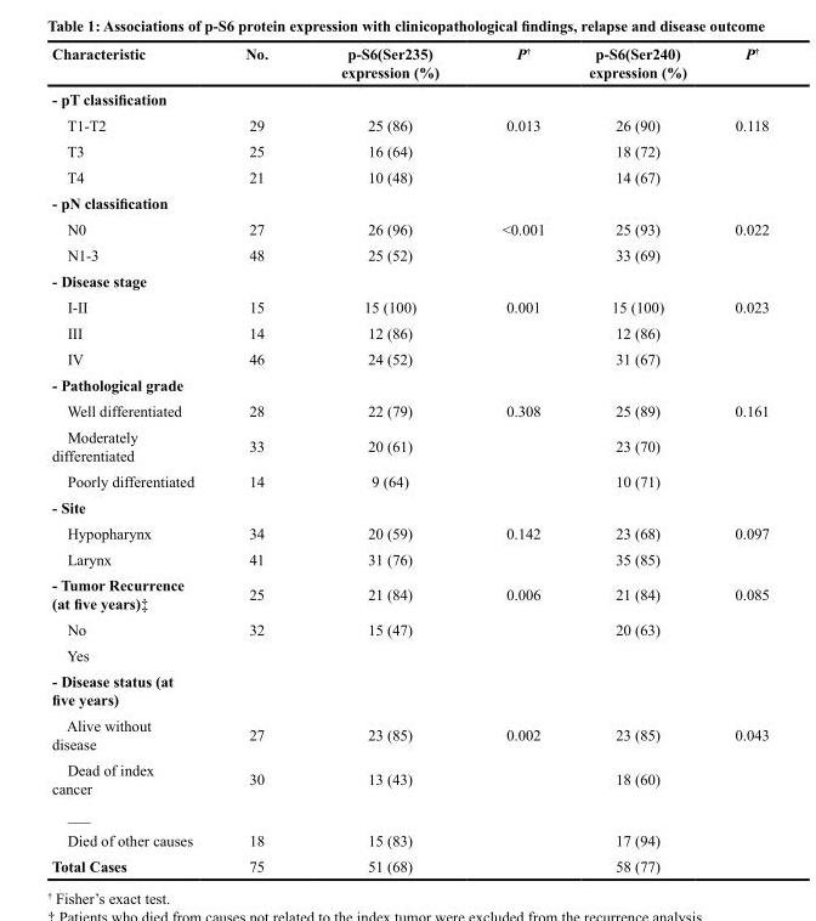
<table><thead><tr><td>Characteristic</td><td>No.</td><td>p-S6(Ser235) expression (%)</td><td>P<sup>†</sup></td><td>p-S6(Ser240) expression (%)</td><td>P<sup>†</sup></td></tr></thead><tbody><tr><td colspan="6">- pT classification</td></tr><tr><td>T1-T2</td><td>29</td><td>25 (86)</td><td>0.013</td><td>26 (90)</td><td>0.118</td></tr><tr><td>T3</td><td>25</td><td>16 (64)</td><td></td><td>18 (72)</td><td></td></tr><tr><td>T4</td><td>21</td><td>10 (48)</td><td></td><td>14 (67)</td><td></td></tr><tr><td colspan="6">- pN classification</td></tr><tr><td>N0</td><td>27</td><td>26 (96)</td><td>&lt;0.001</td><td>25 (93)</td><td>0.022</td></tr><tr><td>N1-3</td><td>48</td><td>25 (52)</td><td></td><td>33 (69)</td><td></td></tr><tr><td colspan="6">- Disease stage</td></tr><tr><td>I-II</td><td>15</td><td>15 (100)</td><td>0.001</td><td>15 (100)</td><td>0.023</td></tr><tr><td>III</td><td>14</td><td>12 (86)</td><td></td><td>12 (86)</td><td></td></tr><tr><td>IV</td><td>46</td><td>24 (52)</td><td></td><td>31 (67)</td><td></td></tr><tr><td colspan="6">- Pathological grade</td></tr><tr><td>Well differentiated</td><td>28</td><td>22 (79)</td><td>0.308</td><td>25 (89)</td><td>0.161</td></tr><tr><td>Moderately differentiated</td><td>33</td><td>20 (61)</td><td></td><td>23 (70)</td><td></td></tr><tr><td>Poorly differentiated</td><td>14</td><td>9 (64)</td><td></td><td>10 (71)</td><td></td></tr><tr><td colspan="6">- Site</td></tr><tr><td>Hypopharynx</td><td>34</td><td>20 (59)</td><td>0.142</td><td>23 (68)</td><td>0.097</td></tr><tr><td>Larynx</td><td>41</td><td>31 (76)</td><td></td><td>35 (85)</td><td></td></tr><tr><td>- Tumor Recurrence (at five years)<sup>‡</sup></td><td>25</td><td>21 (84)</td><td>0.006</td><td>21 (84)</td><td>0.085</td></tr><tr><td>No</td><td>32</td><td>15 (47)</td><td></td><td>20 (63)</td><td></td></tr><tr><td colspan="6">Yes</td></tr><tr><td colspan="6">- Disease status (at five years)</td></tr><tr><td>Alive without disease</td><td>27</td><td>23 (85)</td><td>0.002</td><td>23 (85)</td><td>0.043</td></tr><tr><td>Dead of index cancer</td><td>30</td><td>13 (43)</td><td></td><td>18 (60)</td><td></td></tr><tr><td colspan="6">___</td></tr><tr><td>Died of other causes</td><td>18</td><td>15 (83)</td><td></td><td>17 (94)</td><td></td></tr><tr><td>Total Cases</td><td>75</td><td>51 (68)</td><td></td><td>58 (77)</td><td></td></tr></tbody></table>